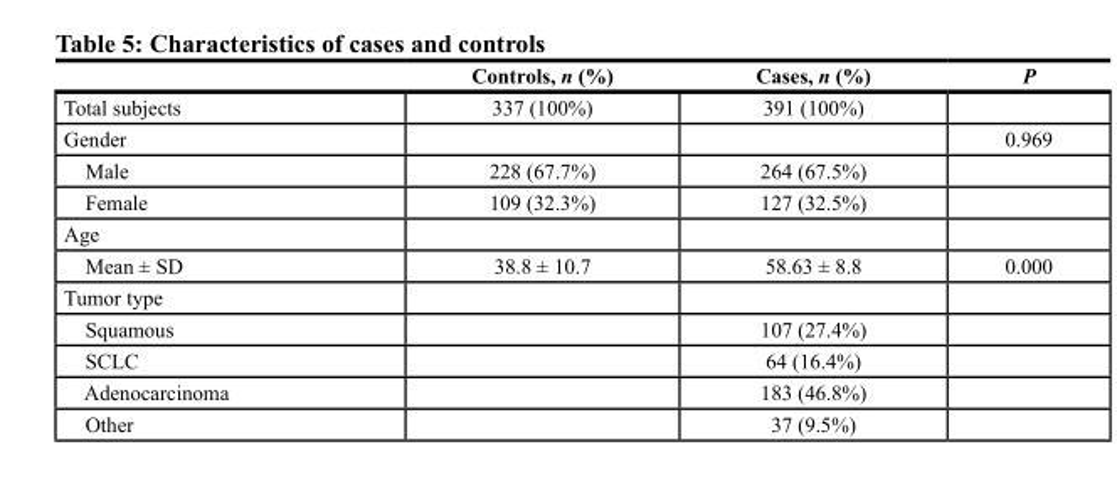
<table><thead><tr><td></td><td>controls, n (%)</td><td>cases, n (%)</td><td>P</td></tr></thead><tbody><tr><td>Total subjects</td><td>337 (100%)</td><td>391 (100%)</td><td></td></tr><tr><td>Gender</td><td></td><td></td><td>0.969</td></tr><tr><td>Male</td><td>228 (67.7%)</td><td>264 (67.5%)</td><td></td></tr><tr><td>Female</td><td>109 (32.3%)</td><td>127 (32.5%)</td><td></td></tr><tr><td colspan="4">Age</td></tr><tr><td>Mean ± SD</td><td>38.8 ± 10.7</td><td>58.63 ± 8.8</td><td>0.000</td></tr><tr><td colspan="4">Tumor type</td></tr><tr><td>Squamous</td><td></td><td>107 (27.4%)</td><td></td></tr><tr><td>SCLC</td><td></td><td>64 (16.4%)</td><td></td></tr><tr><td>Adenocarcinoma</td><td></td><td>183 (46.8%)</td><td></td></tr><tr><td>Other</td><td></td><td>37 (9.5%)</td><td></td></tr></tbody></table>